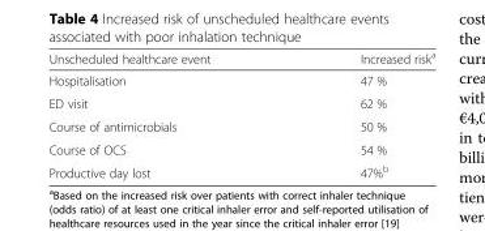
<table><thead><tr><td>Unscheduled healthcare event</td><td>Increased risk<sup>a</sup></td></tr></thead><tbody><tr><td>Hospitalisation</td><td>47 %</td></tr><tr><td>ED visit</td><td>62 %</td></tr><tr><td>Course of antimicrobials</td><td>50 %</td></tr><tr><td>Course of OCS</td><td>54 %</td></tr><tr><td>Productive day lost</td><td>47%<sup>b</sup></td></tr></tbody></table>